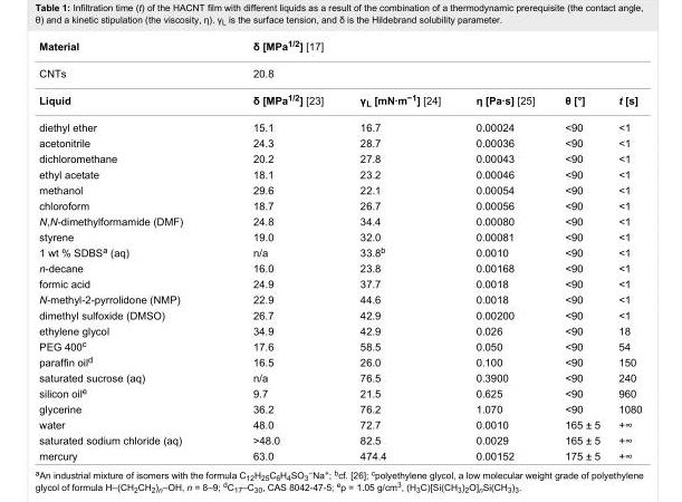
<table><tbody><tr><td>Material</td><td colspan="5">δ [MPa<sup>1/2</sup>] [17]</td></tr><tr><td>CNTs</td><td colspan="5">20.8</td></tr><tr><td>Liquid</td><td>δ [MPa<sup>1/2</sup>] [23]</td><td>γ<sub>L</sub> [mN∙m<sup>−1</sup>] [24]</td><td>η [Pa∙s] [25]</td><td>θ [°]</td><td>t [s]</td></tr><tr><td>diethyl ether</td><td>15.1</td><td>16.7</td><td>0.00024</td><td>&lt;90</td><td>&lt;1</td></tr><tr><td>acetonitrile</td><td>24.3</td><td>28.7</td><td>0.00036</td><td>&lt;90</td><td>&lt;1</td></tr><tr><td>dichloromethane</td><td>20.2</td><td>27.8</td><td>0.00043</td><td>&lt;90</td><td>&lt;1</td></tr><tr><td>ethyl acetate</td><td>18.1</td><td>23.2</td><td>0.00046</td><td>&lt;90</td><td>&lt;1</td></tr><tr><td>methanol</td><td>29.6</td><td>22.1</td><td>0.00054</td><td>&lt;90</td><td>&lt;1</td></tr><tr><td>chloroform</td><td>18.7</td><td>26.7</td><td>0.00056</td><td>&lt;90</td><td>&lt;1</td></tr><tr><td>N,N-dimethylformamide (DMF)</td><td>24.8</td><td>34.4</td><td>0.00080</td><td>&lt;90</td><td>&lt;1</td></tr><tr><td>styrene</td><td>19.0</td><td>32.0</td><td>0.00081</td><td>&lt;90</td><td>&lt;1</td></tr><tr><td>1 wt % SDBS<sup>a</sup> (aq)</td><td>n/a</td><td>33.8<sup>b</sup></td><td>0.0010</td><td>&lt;90</td><td>&lt;1</td></tr><tr><td>n-decane</td><td>16.0</td><td>23.8</td><td>0.00168</td><td>&lt;90</td><td>&lt;1</td></tr><tr><td>formic acid</td><td>24.9</td><td>37.7</td><td>0.0018</td><td>&lt;90</td><td>&lt;1</td></tr><tr><td>N-methyl-2-pyrrolidone (NMP)</td><td>22.9</td><td>44.6</td><td>0.0018</td><td>&lt;90</td><td>&lt;1</td></tr><tr><td>dimethyl sulfoxide (DMSO)</td><td>26.7</td><td>42.9</td><td>0.00200</td><td>&lt;90</td><td>&lt;1</td></tr><tr><td>ethylene glycol</td><td>34.9</td><td>42.9</td><td>0.026</td><td>&lt;90</td><td>18</td></tr><tr><td>PEG 400<sup>c</sup></td><td>17.6</td><td>58.5</td><td>0.050</td><td>&lt;90</td><td>54</td></tr><tr><td>paraffin oil<sup>d</sup></td><td>16.5</td><td>26.0</td><td>0.100</td><td>&lt;90</td><td>150</td></tr><tr><td>saturated sucrose (aq)</td><td>n/a</td><td>76.5</td><td>0.3900</td><td>&lt;90</td><td>240</td></tr><tr><td>silicon oil<sup>e</sup></td><td>9.7</td><td>21.5</td><td>0.625</td><td>&lt;90</td><td>960</td></tr><tr><td>glycerine</td><td>36.2</td><td>76.2</td><td>1.070</td><td>&lt;90</td><td>1080</td></tr><tr><td>water</td><td>48.0</td><td>72.7</td><td>0.0010</td><td>165 ± 5</td><td>+∞</td></tr><tr><td>saturated sodium chloride (aq)</td><td>&gt;48.0</td><td>82.5</td><td>0.0029</td><td>165 ± 5</td><td>+∞</td></tr><tr><td>mercury</td><td>63.0</td><td>474.4</td><td>0.00152</td><td>175 ± 5</td><td>+∞</td></tr></tbody></table>